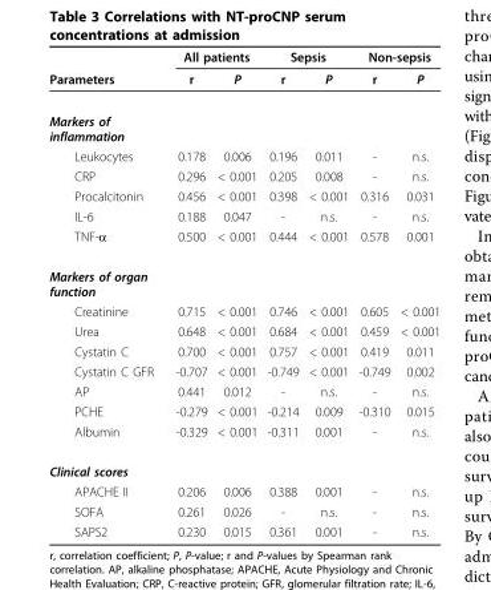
<table><thead><tr><td rowspan="2">Parameters</td><td colspan="2">All patients</td><td colspan="2">Sepsis</td><td colspan="2">Non-sepsis</td></tr><tr><td>r</td><td>P</td><td>r</td><td>P</td><td>r</td><td>P</td></tr></thead><tbody><tr><td colspan="7">Markers of inflammation</td></tr><tr><td>Leukocytes</td><td>0.178</td><td>0.006</td><td>0.196</td><td>0.011</td><td>-</td><td>n.s.</td></tr><tr><td>CRP</td><td>0.296</td><td>&lt; 0.001</td><td>0.205</td><td>0.008</td><td>-</td><td>n.s.</td></tr><tr><td>Procalcitonin</td><td>0.456</td><td>&lt; 0.001</td><td>0.398</td><td>&lt; 0.001</td><td>0.316</td><td>0.031</td></tr><tr><td>IL-6</td><td>0.188</td><td>0.047</td><td>-</td><td>n.s.</td><td>-</td><td>n.s.</td></tr><tr><td>TNF-α</td><td>0.500</td><td>&lt; 0.001</td><td>0.444</td><td>&lt; 0.001</td><td>0.578</td><td>0.001</td></tr><tr><td colspan="7">Markers of organ function</td></tr><tr><td>Creatinine</td><td>0.715</td><td>&lt; 0.001</td><td>0.746</td><td>&lt; 0.001</td><td>0.605</td><td>&lt; 0.001</td></tr><tr><td>Urea</td><td>0.648</td><td>&lt; 0.001</td><td>0.684</td><td>&lt; 0.001</td><td>0.459</td><td>&lt; 0.001</td></tr><tr><td>Cystatin C</td><td>0.700</td><td>&lt; 0.001</td><td>0.757</td><td>&lt; 0.001</td><td>0.419</td><td>0.011</td></tr><tr><td>Cystatin C GFR</td><td>-0.707</td><td>&lt; 0.001</td><td>-0.749</td><td>&lt; 0.001</td><td>-0.749</td><td>0.002</td></tr><tr><td>AP</td><td>0.441</td><td>0.012</td><td>-</td><td>n.s.</td><td>-</td><td>n.s.</td></tr><tr><td>PCHE</td><td>-0.279</td><td>&lt; 0.001</td><td>-0.214</td><td>0.009</td><td>-0.310</td><td>0.015</td></tr><tr><td>Albumin</td><td>-0.329</td><td>&lt; 0.001</td><td>-0.311</td><td>0.001</td><td>-</td><td>n.s.</td></tr><tr><td colspan="7">Clinical scores</td></tr><tr><td>APACHE II</td><td>0.206</td><td>0.006</td><td>0.388</td><td>0.001</td><td>-</td><td>n.s.</td></tr><tr><td>SOFA</td><td>0.261</td><td>0.026</td><td>-</td><td>n.s.</td><td>-</td><td>n.s.</td></tr><tr><td>SAPS2</td><td>0.230</td><td>0.015</td><td>0.361</td><td>0.001</td><td>-</td><td>n.s.</td></tr></tbody></table>